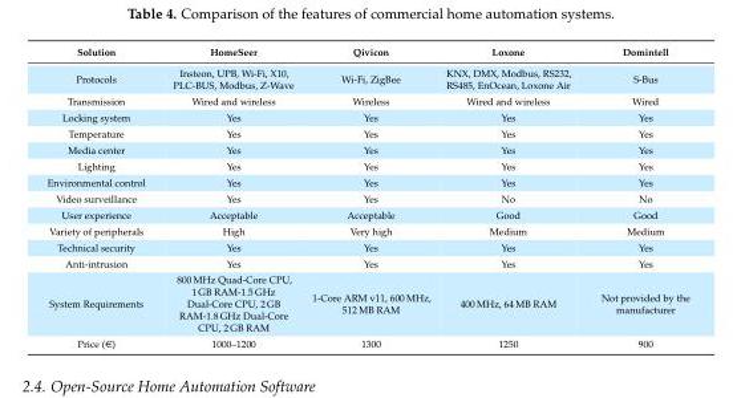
<table><thead><tr><td>Solution</td><td>HomeSeer</td><td>Qivicon</td><td>Loxone</td><td>Domintell</td></tr></thead><tbody><tr><td>Protocols</td><td>Insteon, UPB, Wi-Fi, X10, PLC-BUS, Modbus, Z-Wave</td><td>Wi-Fi, ZigBee</td><td>KNX, DMX, Modbus, RS232, RS485, EnOcean, Loxone Air</td><td>S-Bus</td></tr><tr><td>Transmission</td><td>Wired and wireless</td><td>Wireless</td><td>Wired and wireless</td><td>Wired</td></tr><tr><td>Locking system</td><td>Yes</td><td>Yes</td><td>Yes</td><td>Yes</td></tr><tr><td>Temperature</td><td>Yes</td><td>Yes</td><td>Yes</td><td>Yes</td></tr><tr><td>Media center</td><td>Yes</td><td>Yes</td><td>Yes</td><td>Yes</td></tr><tr><td>Lighting</td><td>Yes</td><td>Yes</td><td>Yes</td><td>Yes</td></tr><tr><td>Environmental control</td><td>Yes</td><td>Yes</td><td>Yes</td><td>Yes</td></tr><tr><td>Video surveillance</td><td>Yes</td><td>Yes</td><td>No</td><td>No</td></tr><tr><td>User experience</td><td>Acceptable</td><td>Acceptable</td><td>Good</td><td>Good</td></tr><tr><td>Variety of peripherals</td><td>High</td><td>Very high</td><td>Medium</td><td>Medium</td></tr><tr><td>Technical security</td><td>Yes</td><td>Yes</td><td>Yes</td><td>Yes</td></tr><tr><td>Anti-intrusion</td><td>Yes</td><td>Yes</td><td>Yes</td><td>Yes</td></tr><tr><td>System Requirements</td><td>800 MHz Quad-Core CPU, 1 GB RAM-1.5 GHz Dual-Core CPU, 2 GB RAM-1.8 GHz Dual-Core CPU, 2 GB RAM</td><td>1-Core ARM v11, 600 MHz, 512 MB RAM</td><td>400 MHz, 64 MB RAM</td><td>Not provided by the manufacturer</td></tr><tr><td>Price (€)</td><td>1000–1200</td><td>1300</td><td>1250</td><td>900</td></tr></tbody></table>